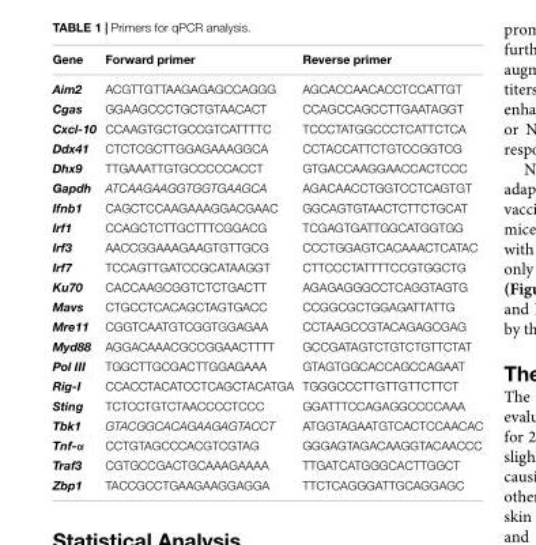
<table><thead><tr><td>Gene</td><td>Forward primer</td><td>Reverse primer</td></tr></thead><tbody><tr><td>Aim2</td><td>ACGTTGTTAAGAGAGCCAGGG</td><td>AGCACCAACACCTCCATTGT</td></tr><tr><td>Cgas</td><td>GGAAGCCCTGCTGTAACACT</td><td>CCAGCCAGCCTTGAATAGGT</td></tr><tr><td>Cxcl-10</td><td>CCAAGTGCTGCCGTCATTTTC</td><td>TCCCTATGGCCCTCATTCTCA</td></tr><tr><td>Ddx41</td><td>CTCTCGCTTGGAGAAAGGCA</td><td>CCTACCATTCTGTCCGGTCG</td></tr><tr><td>Dhx9</td><td>TTGAAATTGTGCCCCCACCT</td><td>GTGACCAAGGAACCACTCCC</td></tr><tr><td>Gapdh</td><td>ATCAAGAAGGTGGTGAAGCA</td><td>AGACAACCTGGTCCTCAGTGT</td></tr><tr><td>Ifnb1</td><td>CAGCTCCAAGAAAGGACGAAC</td><td>GGCAGTGTAACTCTTCTGCAT</td></tr><tr><td>Irf1</td><td>CCAGCTCTTGCTTTCGGACG</td><td>TCGAGTGATTGGCATGGTGG</td></tr><tr><td>Irf3</td><td>AACCGGAAAGAAGTGTTGCG</td><td>CCCTGGAGTCACAAACTCATAC</td></tr><tr><td>Irf7</td><td>TCCAGTTGATCCGCATAAGGT</td><td>CTTCCCTATTTTCCGTGGCTG</td></tr><tr><td>Ku70</td><td>CACCAAGCGGTCTCTGACTT</td><td>AGAGAGGGCCTCAGGTAGTG</td></tr><tr><td>Mavs</td><td>CTGCCTCACAGCTAGTGACC</td><td>CCGGCGCTGGAGATTATTG</td></tr><tr><td>Mre11</td><td>CGGTCAATGTCGGTGGAGAA</td><td>CCTAAGCCGTACAGAGCGAG</td></tr><tr><td>Myd88</td><td>AGGACAAACGCCGGAACTTTT</td><td>GCCGATAGTCTGTCTGTTCTAT</td></tr><tr><td>Pol III</td><td>TGGCTTGCGACTTGGAGAAA</td><td>GTAGTGGCACCAGCCAGAAT</td></tr><tr><td>Rig-I</td><td>CCACCTACATCCTCAGCTACATGA</td><td>TGGGCCCTTGTTGTTCTTCT</td></tr><tr><td>Sting</td><td>TCTCCTGTCTAACCCCTCCC</td><td>GGATTTCCAGAGGCCCCAAA</td></tr><tr><td>Tbk1</td><td>GTACGGCACAGAAGAGTACCT</td><td>ATGGTAGAATGTCACTCCAACAC</td></tr><tr><td>Tnf-α</td><td>CCTGTAGCCCACGTCGTAG</td><td>GGGAGTAGACAAGGTACAACCC</td></tr><tr><td>Traf3</td><td>CGTGCCGACTGCAAAGAAAA</td><td>TTGATCATGGGCACTTGGCT</td></tr><tr><td>Zbp1</td><td>TACCGCCTGAAGAAGGAGGA</td><td>TTCTCAGGGATTGCAGGAGC</td></tr></tbody></table>